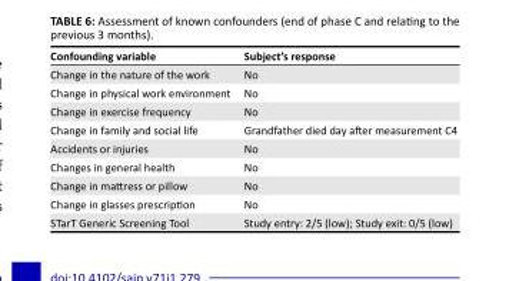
<table><thead><tr><td>Confounding variable</td><td>Subject’s response</td></tr></thead><tbody><tr><td>Change in the nature of the work</td><td>No</td></tr><tr><td>Change in physical work environment</td><td>No</td></tr><tr><td>Change in exercise frequency</td><td>No</td></tr><tr><td>Change in family and social life</td><td>Grandfather died day after measurement C4</td></tr><tr><td>Accidents or injuries</td><td>No</td></tr><tr><td>Changes in general health</td><td>No</td></tr><tr><td>Change in mattress or pillow</td><td>No</td></tr><tr><td>Change in glasses prescription</td><td>No</td></tr><tr><td>STarT Generic Screening Tool</td><td>Study entry: 2/5 (low); Study exit: 0/5 (low)</td></tr></tbody></table>